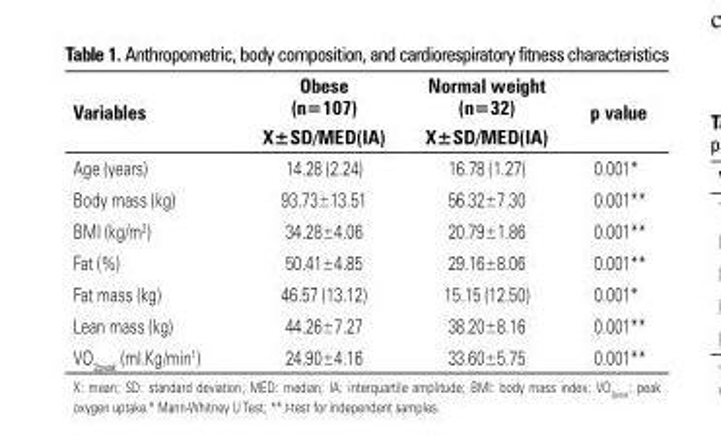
<table><thead><tr><td rowspan="2">Variables</td><td rowspan="2">obese (n=107) X±SD/MED(ia)</td><td rowspan="2">normal weight (n=32) X±SD/MED(ia)</td><td rowspan="2">p value</td></tr><tr></tr></thead><tbody><tr><td>Age (years)</td><td>14.28 (2.24)</td><td>16.78 (1.27)</td><td>0.001*</td></tr><tr><td>Body mass (kg)</td><td>93.73±13.51</td><td>56.32±7.30</td><td>0.001**</td></tr><tr><td>BMI (kg/m<sup>2</sup>)</td><td>34.28±4.06</td><td>20.79±1.86</td><td>0.001**</td></tr><tr><td>Fat (%)</td><td>50.41±4.85</td><td>29.16±8.06</td><td>0.001**</td></tr><tr><td>Fat mass (kg)</td><td>46.57 (13.12)</td><td>15.15 (12.50)</td><td>0.001*</td></tr><tr><td>Lean mass (kg)</td><td>44.26±7.27</td><td>38.20±8.16</td><td>0.001**</td></tr><tr><td>VO<sub>2peak</sub> (ml.Kg/min<sup>1</sup>)</td><td>24.90±4.16</td><td>33.60±5.75</td><td>0.001**</td></tr></tbody></table>